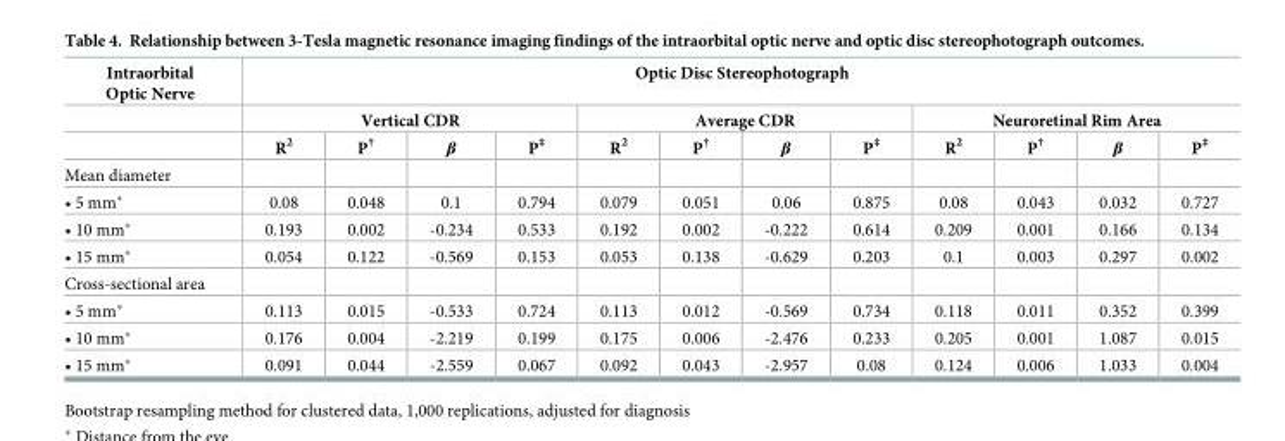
<table><thead><tr><td rowspan="3">Intraorbital Optic Nerve</td><td colspan="12">Optic Disc Stereophotograph</td></tr><tr><td colspan="4">Vertical CDR</td><td colspan="4">Average CDR</td><td colspan="4">Neuroretinal Rim Area</td></tr><tr><td>R<sup>2</sup></td><td>P<sup>†</sup></td><td>β</td><td>P<sup>‡</sup></td><td>R<sup>2</sup></td><td>P<sup>†</sup></td><td>β</td><td>P<sup>‡</sup></td><td>R<sup>2</sup></td><td>P<sup>†</sup></td><td>β</td><td>P<sup>‡</sup></td></tr></thead><tbody><tr><td colspan="13">Mean diameter</td></tr><tr><td>• 5 mm*</td><td>0.08</td><td>0.048</td><td>0.1</td><td>0.794</td><td>0.079</td><td>0.051</td><td>0.06</td><td>0.875</td><td>0.08</td><td>0.043</td><td>0.032</td><td>0.727</td></tr><tr><td>• 10 mm*</td><td>0.193</td><td>0.002</td><td>-0.234</td><td>0.533</td><td>0.192</td><td>0.002</td><td>-0.222</td><td>0.614</td><td>0.209</td><td>0.001</td><td>0.166</td><td>0.134</td></tr><tr><td>• 15 mm*</td><td>0.054</td><td>0.122</td><td>-0.569</td><td>0.153</td><td>0.053</td><td>0.138</td><td>-0.629</td><td>0.203</td><td>0.1</td><td>0.003</td><td>0.297</td><td>0.002</td></tr><tr><td colspan="13">Cross-sectional area</td></tr><tr><td>• 5 mm*</td><td>0.113</td><td>0.015</td><td>-0.533</td><td>0.724</td><td>0.113</td><td>0.012</td><td>-0.569</td><td>0.734</td><td>0.118</td><td>0.011</td><td>0.352</td><td>0.399</td></tr><tr><td>• 10 mm*</td><td>0.176</td><td>0.004</td><td>-2.219</td><td>0.199</td><td>0.175</td><td>0.006</td><td>-2.476</td><td>0.233</td><td>0.205</td><td>0.001</td><td>1.087</td><td>0.015</td></tr><tr><td>• 15 mm*</td><td>0.091</td><td>0.044</td><td>-2.559</td><td>0.067</td><td>0.092</td><td>0.043</td><td>-2.957</td><td>0.08</td><td>0.124</td><td>0.006</td><td>1.033</td><td>0.004</td></tr></tbody></table>